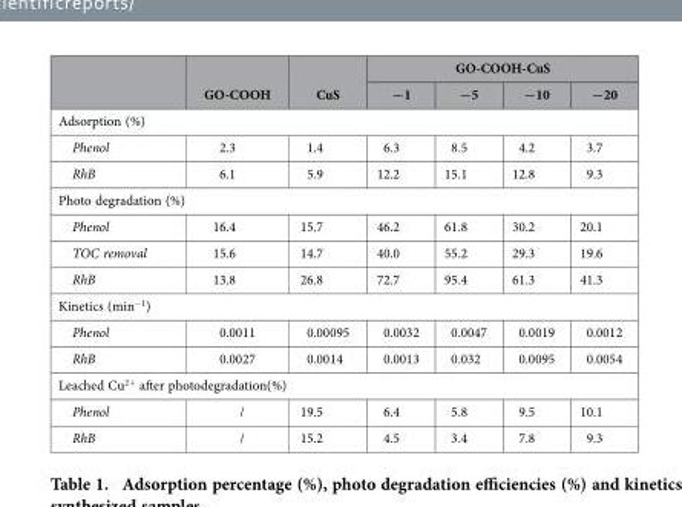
<table><thead><tr><td rowspan="2"></td><td rowspan="2">GO-COOH</td><td rowspan="2">CuS</td><td colspan="4">GO-COOH-CuS</td></tr><tr><td>−1</td><td>−5</td><td>−10</td><td>−20</td></tr></thead><tbody><tr><td colspan="7">Adsorption (%)</td></tr><tr><td>Phenol</td><td>2.3</td><td>1.4</td><td>6.3</td><td>8.5</td><td>4.2</td><td>3.7</td></tr><tr><td>RhB</td><td>6.1</td><td>5.9</td><td>12.2</td><td>15.1</td><td>12.8</td><td>9.3</td></tr><tr><td colspan="7">Photo degradation (%)</td></tr><tr><td>Phenol</td><td>16.4</td><td>15.7</td><td>46.2</td><td>61.8</td><td>30.2</td><td>20.1</td></tr><tr><td>TOC removal</td><td>15.6</td><td>14.7</td><td>40.0</td><td>55.2</td><td>29.3</td><td>19.6</td></tr><tr><td>RhB</td><td>13.8</td><td>26.8</td><td>72.7</td><td>95.4</td><td>61.3</td><td>41.3</td></tr><tr><td colspan="7">Kinetics (min<sup>−1</sup>)</td></tr><tr><td>Phenol</td><td>0.0011</td><td>0.00095</td><td>0.0032</td><td>0.0047</td><td>0.0019</td><td>0.0012</td></tr><tr><td>RhB</td><td>0.0027</td><td>0.0014</td><td>0.0013</td><td>0.032</td><td>0.0095</td><td>0.0054</td></tr><tr><td colspan="7">Leached Cu<sup>2+</sup> after photodegradation(%)</td></tr><tr><td>Phenol</td><td>/</td><td>19.5</td><td>6.4</td><td>5.8</td><td>9.5</td><td>10.1</td></tr><tr><td>RhB</td><td>/</td><td>15.2</td><td>4.5</td><td>3.4</td><td>7.8</td><td>9.3</td></tr></tbody></table>